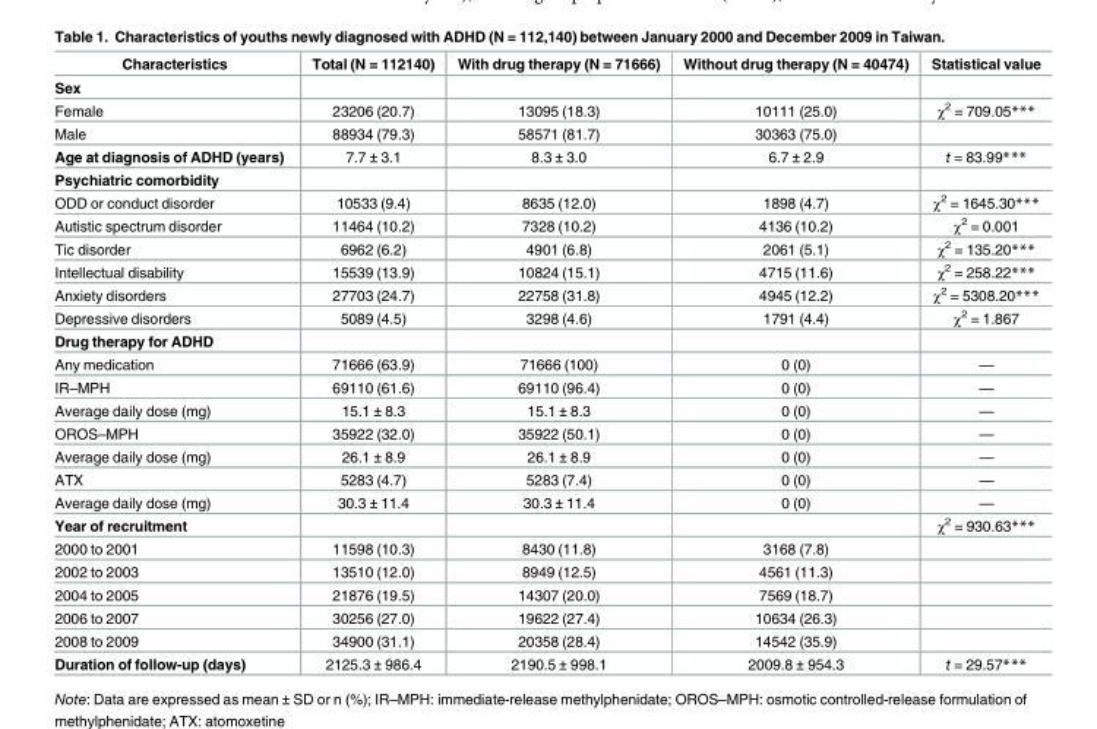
<table><thead><tr><td>Characteristics</td><td>Total (N = 112140)</td><td>With drug therapy (N = 71666)</td><td>Without drug therapy (N = 40474)</td><td>Statistical value</td></tr></thead><tbody><tr><td colspan="5">Sex</td></tr><tr><td>Female</td><td>23206 (20.7)</td><td>13095 (18.3)</td><td>10111 (25.0)</td><td>χ<sup>2</sup> = 709.05***</td></tr><tr><td>Male</td><td>88934 (79.3)</td><td>58571 (81.7)</td><td>30363 (75.0)</td><td></td></tr><tr><td>Age at diagnosis of ADHD (years)</td><td>7.7 ± 3.1</td><td>8.3 ± 3.0</td><td>6.7 ± 2.9</td><td>t = 83.99***</td></tr><tr><td colspan="5">Psychiatric comorbidity</td></tr><tr><td>ODD or conduct disorder</td><td>10533 (9.4)</td><td>8635 (12.0)</td><td>1898 (4.7)</td><td>χ<sup>2</sup> = 1645.30***</td></tr><tr><td>Autistic spectrum disorder</td><td>11464 (10.2)</td><td>7328 (10.2)</td><td>4136 (10.2)</td><td>χ<sup>2</sup> = 0.001</td></tr><tr><td>Tic disorder</td><td>6962 (6.2)</td><td>4901 (6.8)</td><td>2061 (5.1)</td><td>χ<sup>2</sup> = 135.20***</td></tr><tr><td>Intellectual disability</td><td>15539 (13.9)</td><td>10824 (15.1)</td><td>4715 (11.6)</td><td>χ<sup>2</sup> = 258.22***</td></tr><tr><td>Anxiety disorders</td><td>27703 (24.7)</td><td>22758 (31.8)</td><td>4945 (12.2)</td><td>χ<sup>2</sup> = 5308.20***</td></tr><tr><td>Depressive disorders</td><td>5089 (4.5)</td><td>3298 (4.6)</td><td>1791 (4.4)</td><td>χ<sup>2</sup> = 1.867</td></tr><tr><td colspan="5">Drug therapy for ADHD</td></tr><tr><td>Any medication</td><td>71666 (63.9)</td><td>71666 (100)</td><td>0 (0)</td><td>—</td></tr><tr><td>IR–MPH</td><td>69110 (61.6)</td><td>69110 (96.4)</td><td>0 (0)</td><td>—</td></tr><tr><td>Average daily dose (mg)</td><td>15.1 ± 8.3</td><td>15.1 ± 8.3</td><td>0 (0)</td><td>—</td></tr><tr><td>OROS–MPH</td><td>35922 (32.0)</td><td>35922 (50.1)</td><td>0 (0)</td><td>—</td></tr><tr><td>Average daily dose (mg)</td><td>26.1 ± 8.9</td><td>26.1 ± 8.9</td><td>0 (0)</td><td>—</td></tr><tr><td>ATX</td><td>5283 (4.7)</td><td>5283 (7.4)</td><td>0 (0)</td><td>—</td></tr><tr><td>Average daily dose (mg)</td><td>30.3 ± 11.4</td><td>30.3 ± 11.4</td><td>0 (0)</td><td>—</td></tr><tr><td>Year of recruitment</td><td></td><td></td><td></td><td>χ<sup>2</sup> = 930.63***</td></tr><tr><td>2000 to 2001</td><td>11598 (10.3)</td><td>8430 (11.8)</td><td>3168 (7.8)</td><td></td></tr><tr><td>2002 to 2003</td><td>13510 (12.0)</td><td>8949 (12.5)</td><td>4561 (11.3)</td><td></td></tr><tr><td>2004 to 2005</td><td>21876 (19.5)</td><td>14307 (20.0)</td><td>7569 (18.7)</td><td></td></tr><tr><td>2006 to 2007</td><td>30256 (27.0)</td><td>19622 (27.4)</td><td>10634 (26.3)</td><td></td></tr><tr><td>2008 to 2009</td><td>34900 (31.1)</td><td>20358 (28.4)</td><td>14542 (35.9)</td><td></td></tr><tr><td>Duration of follow-up (days)</td><td>2125.3 ± 986.4</td><td>2190.5 ± 998.1</td><td>2009.8 ± 954.3</td><td>t = 29.57***</td></tr></tbody></table>